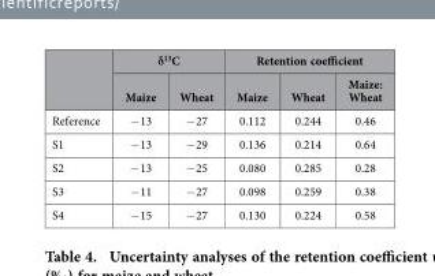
<table><thead><tr><td rowspan="2"></td><td colspan="2">δ<sup>13</sup>C</td><td colspan="3">Retention coefficient</td></tr><tr><td>Maize</td><td>Wheat</td><td>Maize</td><td>Wheat</td><td>Maize: Wheat</td></tr></thead><tbody><tr><td>Reference</td><td>− 13</td><td>− 27</td><td>0.112</td><td>0.244</td><td>0.46</td></tr><tr><td>S1</td><td>− 13</td><td>− 29</td><td>0.136</td><td>0.214</td><td>0.64</td></tr><tr><td>S2</td><td>− 13</td><td>− 25</td><td>0.080</td><td>0.285</td><td>0.28</td></tr><tr><td>S3</td><td>− 11</td><td>− 27</td><td>0.098</td><td>0.259</td><td>0.38</td></tr><tr><td>S4</td><td>− 15</td><td>− 27</td><td>0.130</td><td>0.224</td><td>0.58</td></tr></tbody></table>